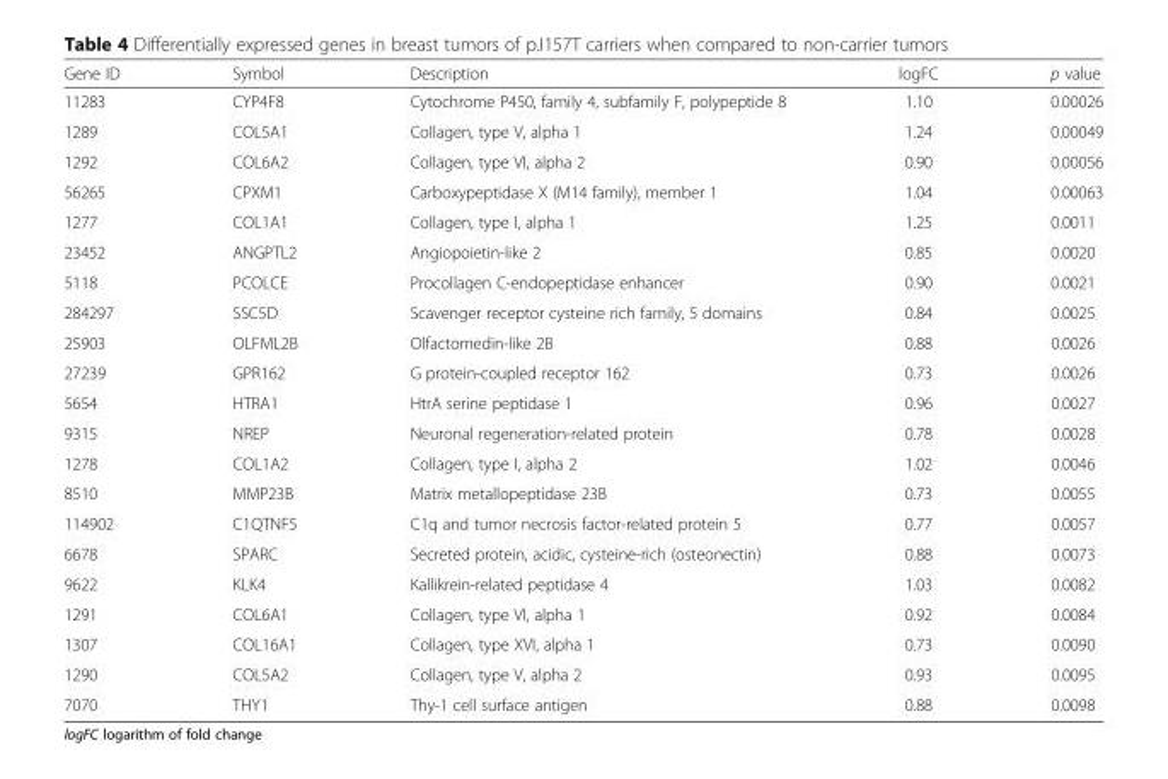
<table><thead><tr><td>Gene ID</td><td>Symbol</td><td>Description</td><td>logFC</td><td>p value</td></tr></thead><tbody><tr><td>11283</td><td>CYP4F8</td><td>Cytochrome P450, family 4, subfamily F, polypeptide 8</td><td>1.10</td><td>0.00026</td></tr><tr><td>1289</td><td>COL5A1</td><td>Collagen, type V, alpha 1</td><td>1.24</td><td>0.00049</td></tr><tr><td>1292</td><td>COL6A2</td><td>Collagen, type VI, alpha 2</td><td>0.90</td><td>0.00056</td></tr><tr><td>56265</td><td>CPXM1</td><td>Carboxypeptidase X (M14 family), member 1</td><td>1.04</td><td>0.00063</td></tr><tr><td>1277</td><td>COL1A1</td><td>Collagen, type I, alpha 1</td><td>1.25</td><td>0.0011</td></tr><tr><td>23452</td><td>ANGPTL2</td><td>Angiopoietin-like 2</td><td>0.85</td><td>0.0020</td></tr><tr><td>5118</td><td>PCOLCE</td><td>Procollagen C-endopeptidase enhancer</td><td>0.90</td><td>0.0021</td></tr><tr><td>284297</td><td>SSC5D</td><td>Scavenger receptor cysteine rich family, 5 domains</td><td>0.84</td><td>0.0025</td></tr><tr><td>25903</td><td>OLFML2B</td><td>Olfactomedin-like 2B</td><td>0.88</td><td>0.0026</td></tr><tr><td>27239</td><td>GPR162</td><td>G protein-coupled receptor 162</td><td>0.73</td><td>0.0026</td></tr><tr><td>5654</td><td>HTRA1</td><td>HtrA serine peptidase 1</td><td>0.96</td><td>0.0027</td></tr><tr><td>9315</td><td>NREP</td><td>Neuronal regeneration-related protein</td><td>0.78</td><td>0.0028</td></tr><tr><td>1278</td><td>COL1A2</td><td>Collagen, type I, alpha 2</td><td>1.02</td><td>0.0046</td></tr><tr><td>8510</td><td>MMP23B</td><td>Matrix metallopeptidase 23B</td><td>0.73</td><td>0.0055</td></tr><tr><td>114902</td><td>C1QTNF5</td><td>C1q and tumor necrosis factor-related protein 5</td><td>0.77</td><td>0.0057</td></tr><tr><td>6678</td><td>SPARC</td><td>Secreted protein, acidic, cysteine-rich (osteonectin)</td><td>0.88</td><td>0.0073</td></tr><tr><td>9622</td><td>KLK4</td><td>Kallikrein-related peptidase 4</td><td>1.03</td><td>0.0082</td></tr><tr><td>1291</td><td>COL6A1</td><td>Collagen, type VI, alpha 1</td><td>0.92</td><td>0.0084</td></tr><tr><td>1307</td><td>COL16A1</td><td>Collagen, type XVI, alpha 1</td><td>0.73</td><td>0.0090</td></tr><tr><td>1290</td><td>COL5A2</td><td>Collagen, type V, alpha 2</td><td>0.93</td><td>0.0095</td></tr><tr><td>7070</td><td>THY1</td><td>Thy-1 cell surface antigen</td><td>0.88</td><td>0.0098</td></tr></tbody></table>